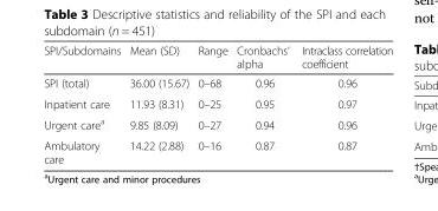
<table><thead><tr><td>SPI/Subdomains</td><td>Mean (SD)</td><td>Range</td><td>Cronbachs’ alpha</td><td>Intraclass correlation coefficient</td></tr></thead><tbody><tr><td>SPI (total)</td><td>36.00 (15.67)</td><td>0–68</td><td>0.96</td><td>0.96</td></tr><tr><td>Inpatient care</td><td>11.93 (8.31)</td><td>0–25</td><td>0.95</td><td>0.97</td></tr><tr><td>Urgent care<sup>a</sup></td><td>9.85 (8.09)</td><td>0–27</td><td>0.94</td><td>0.96</td></tr><tr><td>Ambulatory care</td><td>14.22 (2.88)</td><td>0–16</td><td>0.87</td><td>0.87</td></tr></tbody></table>